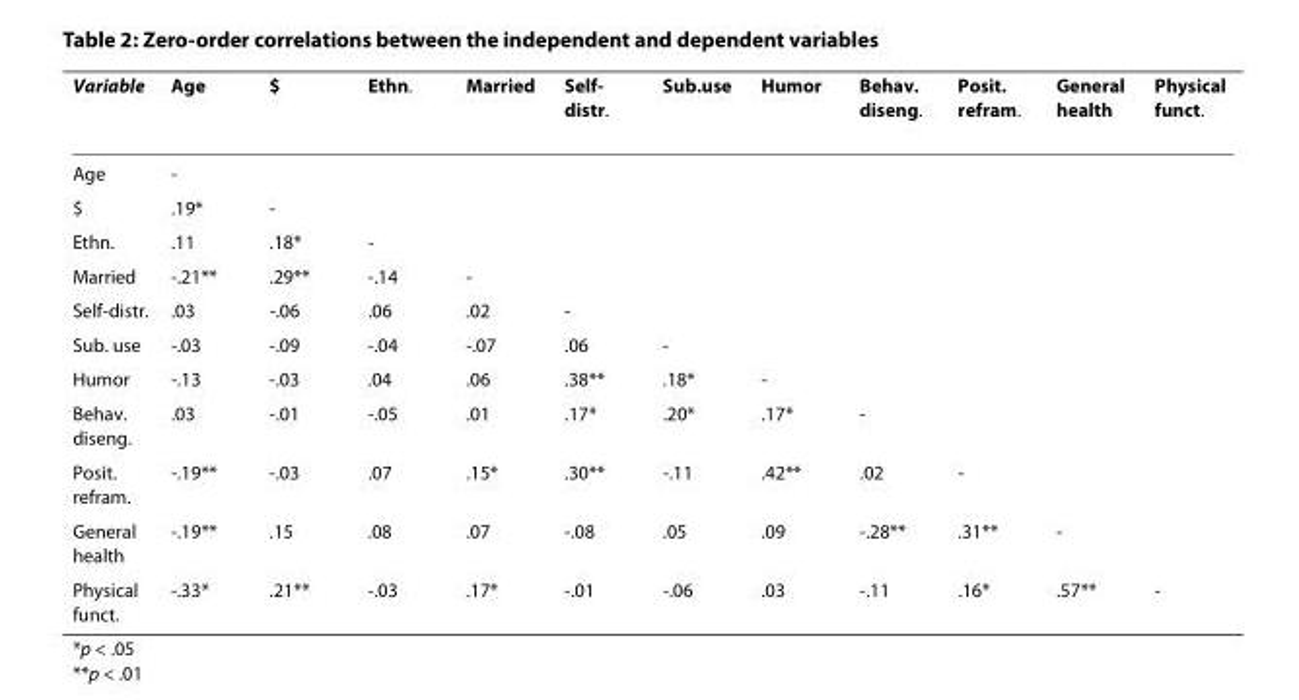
<table><thead><tr><td>Variable</td><td>Age</td><td>$</td><td>Ethn.</td><td>Married</td><td>Self- distr.</td><td>Sub.use</td><td>Humor</td><td>Behav. diseng.</td><td>Posit. refram.</td><td>General health</td><td>Physical funct.</td></tr></thead><tbody><tr><td>Age</td><td>-</td><td></td><td></td><td></td><td></td><td></td><td></td><td></td><td></td><td></td><td></td></tr><tr><td>$</td><td>.19*</td><td>-</td><td></td><td></td><td></td><td></td><td></td><td></td><td></td><td></td><td></td></tr><tr><td>Ethn.</td><td>.11</td><td>.18*</td><td>-</td><td></td><td></td><td></td><td></td><td></td><td></td><td></td><td></td></tr><tr><td>Married</td><td>-.21**</td><td>.29**</td><td>-.14</td><td>-</td><td></td><td></td><td></td><td></td><td></td><td></td><td></td></tr><tr><td>Self-distr.</td><td>.03</td><td>-.06</td><td>.06</td><td>.02</td><td>-</td><td></td><td></td><td></td><td></td><td></td><td></td></tr><tr><td>Sub. use</td><td>-.03</td><td>-.09</td><td>-.04</td><td>-.07</td><td>.06</td><td>-</td><td></td><td></td><td></td><td></td><td></td></tr><tr><td>Humor</td><td>-.13</td><td>-.03</td><td>.04</td><td>.06</td><td>.38**</td><td>.18*</td><td>-</td><td></td><td></td><td></td><td></td></tr><tr><td>Behav. diseng.</td><td>.03</td><td>-.01</td><td>-.05</td><td>.01</td><td>.17*</td><td>.20*</td><td>.17*</td><td>-</td><td></td><td></td><td></td></tr><tr><td>Posit. refram.</td><td>-.19**</td><td>-.03</td><td>.07</td><td>.15*</td><td>.30**</td><td>-.11</td><td>.42**</td><td>.02</td><td>-</td><td></td><td></td></tr><tr><td>General health</td><td>-.19**</td><td>.15</td><td>.08</td><td>.07</td><td>-.08</td><td>.05</td><td>.09</td><td>-.28**</td><td>.31**</td><td>-</td><td></td></tr><tr><td>Physical funct.</td><td>-.33*</td><td>.21**</td><td>-.03</td><td>.17*</td><td>-.01</td><td>-.06</td><td>.03</td><td>-.11</td><td>.16*</td><td>.57**</td><td>-</td></tr></tbody></table>